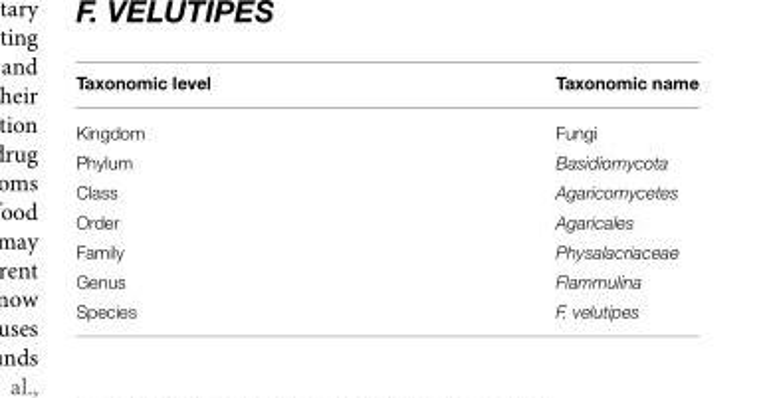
<table><thead><tr><td>Taxonomic level</td><td>Taxonomic name</td></tr></thead><tbody><tr><td>Kingdom</td><td>Fungi</td></tr><tr><td>Phylum</td><td>Basidiomycota</td></tr><tr><td>Class</td><td>Agaricomycetes</td></tr><tr><td>Order</td><td>Agaricales</td></tr><tr><td>Family</td><td>Physalacriaceae</td></tr><tr><td>Genus</td><td>Flammulina</td></tr><tr><td>Species</td><td>F. velutipes</td></tr></tbody></table>